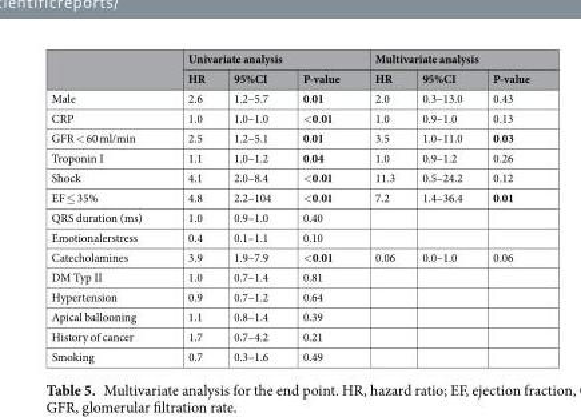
<table><thead><tr><td rowspan="2"></td><td colspan="3">Univariate analysis</td><td colspan="3">Multivariate analysis</td></tr><tr><td>HR</td><td>95%CI</td><td>P-value</td><td>HR</td><td>95%CI</td><td>P-value</td></tr></thead><tbody><tr><td>Male</td><td>2.6</td><td>1.2–5.7</td><td>0.01</td><td>2.0</td><td>0.3–13.0</td><td>0.43</td></tr><tr><td>CRP</td><td>1.0</td><td>1.0–1.0</td><td>&lt;0.01</td><td>1.0</td><td>0.9–1.0</td><td>0.13</td></tr><tr><td>GFR &lt; 60 ml/min</td><td>2.5</td><td>1.2–5.1</td><td>0.01</td><td>3.5</td><td>1.0–11.0</td><td>0.03</td></tr><tr><td>Troponin I</td><td>1.1</td><td>1.0–1.2</td><td>0.04</td><td>1.0</td><td>0.9–1.2</td><td>0.26</td></tr><tr><td>Shock</td><td>4.1</td><td>2.0–8.4</td><td>&lt;0.01</td><td>11.3</td><td>0.5–24.2</td><td>0.12</td></tr><tr><td>EF ≤ 35%</td><td>4.8</td><td>2.2–104</td><td>&lt;0.01</td><td>7.2</td><td>1.4–36.4</td><td>0.01</td></tr><tr><td>QRS duration (ms)</td><td>1.0</td><td>0.9–1.0</td><td>0.40</td><td></td><td></td><td></td></tr><tr><td>Emotionalerstress</td><td>0.4</td><td>0.1–1.1</td><td>0.10</td><td></td><td></td><td></td></tr><tr><td>Catecholamines</td><td>3.9</td><td>1.9–7.9</td><td>&lt;0.01</td><td>0.06</td><td>0.0–1.0</td><td>0.06</td></tr><tr><td>DM Typ II</td><td>1.0</td><td>0.7–1.4</td><td>0.81</td><td></td><td></td><td></td></tr><tr><td>Hypertension</td><td>0.9</td><td>0.7–1.2</td><td>0.64</td><td></td><td></td><td></td></tr><tr><td>Apical ballooning</td><td>1.1</td><td>0.8–1.4</td><td>0.39</td><td></td><td></td><td></td></tr><tr><td>History of cancer</td><td>1.7</td><td>0.7–4.2</td><td>0.21</td><td></td><td></td><td></td></tr><tr><td>Smoking</td><td>0.7</td><td>0.3–1.6</td><td>0.49</td><td></td><td></td><td></td></tr></tbody></table>